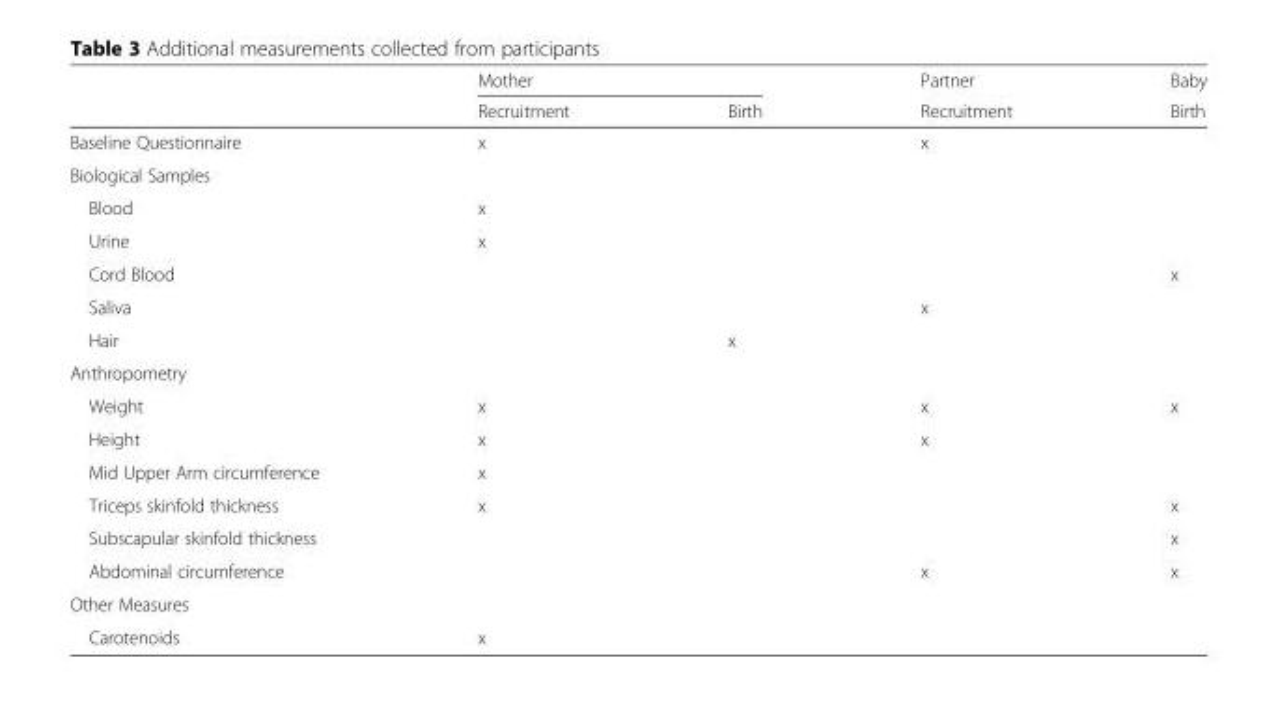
<table><thead><tr><td rowspan="2"></td><td colspan="2">Mother</td><td rowspan="2">Partner Recruitment</td><td rowspan="2">Baby Birth</td></tr><tr><td>Recruitment</td><td>Birth</td></tr></thead><tbody><tr><td>Baseline Questionnaire</td><td>x</td><td></td><td>x</td><td></td></tr><tr><td colspan="5">Biological Samples</td></tr><tr><td>Blood</td><td>x</td><td></td><td></td><td></td></tr><tr><td>Urine</td><td>x</td><td></td><td></td><td></td></tr><tr><td>Cord Blood</td><td></td><td></td><td></td><td>x</td></tr><tr><td>Saliva</td><td></td><td></td><td>x</td><td></td></tr><tr><td>Hair</td><td></td><td>x</td><td></td><td></td></tr><tr><td colspan="5">Anthropometry</td></tr><tr><td>Weight</td><td>x</td><td></td><td>x</td><td>x</td></tr><tr><td>Height</td><td>x</td><td></td><td>x</td><td></td></tr><tr><td>Mid Upper Arm circumference</td><td>x</td><td></td><td></td><td></td></tr><tr><td>Triceps skinfold thickness</td><td>x</td><td></td><td></td><td>x</td></tr><tr><td>Subscapular skinfold thickness</td><td></td><td></td><td></td><td>x</td></tr><tr><td>Abdominal circumference</td><td></td><td></td><td>x</td><td>x</td></tr><tr><td colspan="5">Other Measures</td></tr><tr><td>Carotenoids</td><td>x</td><td></td><td></td><td></td></tr></tbody></table>